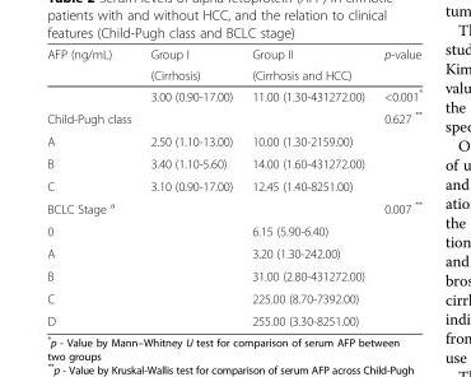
<table><thead><tr><td rowspan="2">AFP (ng/mL)</td><td rowspan="2">Group I (Cirrhosis)</td><td rowspan="2">Group II (Cirrhosis and HCC)</td><td rowspan="2">p-value</td></tr><tr></tr></thead><tbody><tr><td></td><td>3.00 (0.90-17.00)</td><td>11.00 (1.30-431272.00)</td><td>&lt;0.001*</td></tr><tr><td colspan="3">Child-Pugh class</td><td rowspan="4">0.627 **</td></tr><tr><td>A</td><td>2.50 (1.10-13.00)</td><td>10.00 (1.30-2159.00)</td></tr><tr><td>B</td><td>3.40 (1.10-5.60)</td><td>14.00 (1.60-431272.00)</td></tr><tr><td>C</td><td>3.10 (0.90-17.00)</td><td>12.45 (1.40-8251.00)</td></tr><tr><td colspan="3">BCLC Stage <sup>a</sup></td><td rowspan="6">0.007 **</td></tr><tr><td>0</td><td></td><td>6.15 (5.90-6.40)</td></tr><tr><td>A</td><td></td><td>3.20 (1.30-242.00)</td></tr><tr><td>B</td><td></td><td>31.00 (2.80-431272.00)</td></tr><tr><td>C</td><td></td><td>225.00 (8.70-7392.00)</td></tr><tr><td>D</td><td></td><td>255.00 (3.30-8251.00)</td></tr></tbody></table>